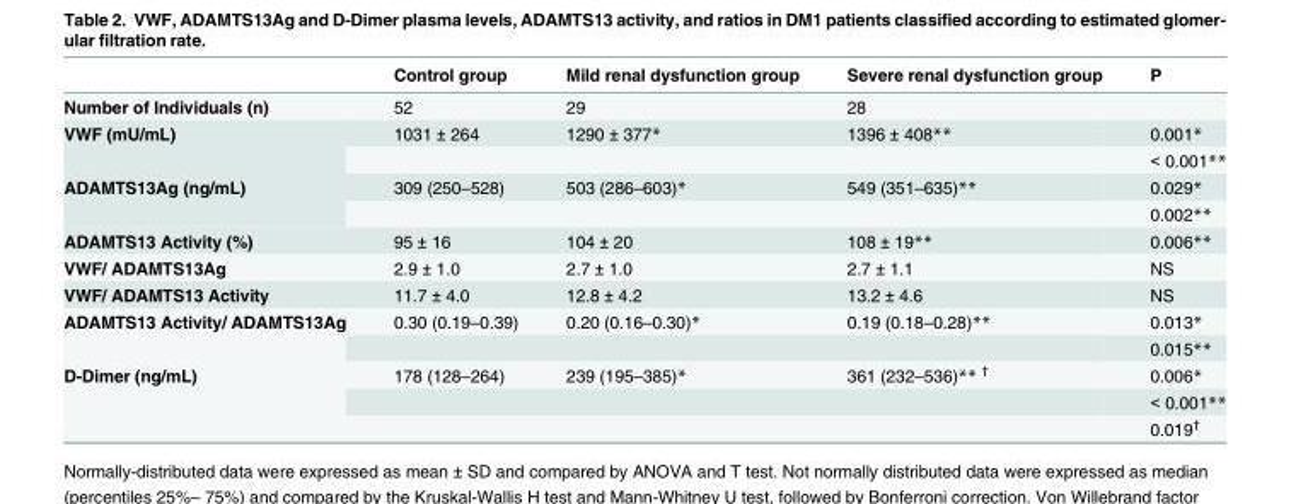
<table><thead><tr><td></td><td>Control group</td><td>Mild renal dysfunction group</td><td>Severe renal dysfunction group</td><td>P</td></tr></thead><tbody><tr><td>Number of Individuals (n)</td><td>52</td><td>29</td><td>28</td><td></td></tr><tr><td rowspan="2">VWF (mU/mL)</td><td>1031 ± 264</td><td>1290 ± 377*</td><td>1396 ± 408**</td><td>0.001*</td></tr><tr><td></td><td></td><td></td><td>&lt; 0.001**</td></tr><tr><td rowspan="2">ADAMTS13Ag (ng/mL)</td><td>309 (250–528)</td><td>503 (286–603)*</td><td>549 (351–635)**</td><td>0.029*</td></tr><tr><td></td><td></td><td></td><td>0.002**</td></tr><tr><td>ADAMTS13 Activity (%)</td><td>95 ± 16</td><td>104 ± 20</td><td>108 ± 19**</td><td>0.006**</td></tr><tr><td>VWF/ ADAMTS13Ag</td><td>2.9 ± 1.0</td><td>2.7 ± 1.0</td><td>2.7 ± 1.1</td><td>NS</td></tr><tr><td>VWF/ ADAMTS13 Activity</td><td>11.7 ± 4.0</td><td>12.8 ± 4.2</td><td>13.2 ± 4.6</td><td>NS</td></tr><tr><td rowspan="2">ADAMTS13 Activity/ ADAMTS13Ag</td><td>0.30 (0.19–0.39)</td><td>0.20 (0.16–0.30)*</td><td>0.19 (0.18–0.28)**</td><td>0.013*</td></tr><tr><td></td><td></td><td></td><td>0.015**</td></tr><tr><td rowspan="3">D-Dimer (ng/mL)</td><td>178 (128–264)</td><td>239 (195–385)*</td><td>361 (232–536)** <sup>†</sup></td><td>0.006*</td></tr><tr><td></td><td></td><td></td><td>&lt; 0.001**</td></tr><tr><td></td><td></td><td></td><td>0.019<sup>†</sup></td></tr></tbody></table>